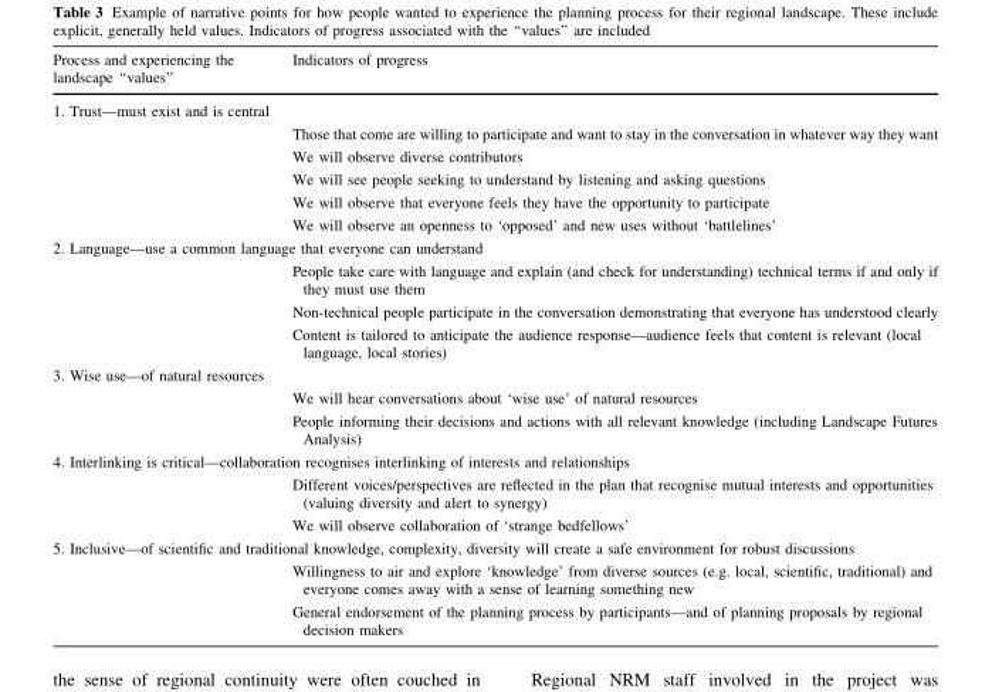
<table><thead><tr><td>Process and experiencing the landscape ‘‘values’’</td><td>Indicators of progress</td></tr></thead><tbody><tr><td colspan="2">1. Trust—must exist and is central</td></tr><tr><td rowspan="5"></td><td>Those that come are willing to participate and want to stay in the conversation in whatever way they want</td></tr><tr><td>We will observe diverse contributors</td></tr><tr><td>We will see people seeking to understand by listening and asking questions</td></tr><tr><td>We will observe that everyone feels they have the opportunity to participate</td></tr><tr><td>We will observe an openness to ‘opposed’ and new uses without ‘battlelines’</td></tr><tr><td colspan="2">2. Language—use a common language that everyone can understand</td></tr><tr><td rowspan="3"></td><td>People take care with language and explain (and check for understanding) technical terms if and only if they must use them</td></tr><tr><td>Non-technical people participate in the conversation demonstrating that everyone has understood clearly</td></tr><tr><td>Content is tailored to anticipate the audience response—audience feels that content is relevant (local language, local stories)</td></tr><tr><td colspan="2">3. Wise use—of natural resources</td></tr><tr><td rowspan="2"></td><td>We will hear conversations about ‘wise use’ of natural resources</td></tr><tr><td>People informing their decisions and actions with all relevant knowledge (including Landscape Futures Analysis)</td></tr><tr><td colspan="2">4. Interlinking is critical—collaboration recognises interlinking of interests and relationships</td></tr><tr><td rowspan="2"></td><td>Different voices/perspectives are reflected in the plan that recognise mutual interests and opportunities (valuing diversity and alert to synergy)</td></tr><tr><td>We will observe collaboration of ‘strange bedfellows’</td></tr><tr><td colspan="2">5. Inclusive—of scientific and traditional knowledge, complexity, diversity will create a safe environment for robust discussions</td></tr><tr><td rowspan="2"></td><td>Willingness to air and explore ‘knowledge’ from diverse sources (e.g. local, scientific, traditional) and everyone comes away with a sense of learning something new</td></tr><tr><td>General endorsement of the planning process by participants—and of planning proposals by regional decision makers</td></tr></tbody></table>